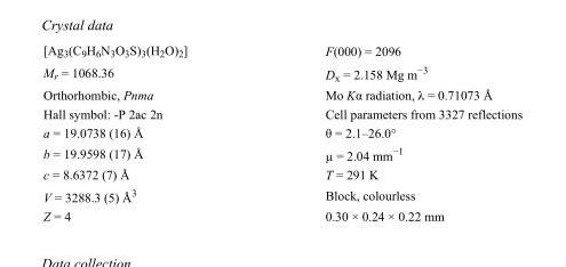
<table><tbody><tr><td>[Ag<sub>3</sub>(C<sub>9</sub>H<sub>6</sub>N<sub>3</sub>O<sub>3</sub>S)<sub>3</sub>(H<sub>2</sub>O)<sub>2</sub>]</td><td>F(000) = 2096</td></tr><tr><td>M<sub>r</sub> = 1068.36</td><td>D<sub>x</sub> = 2.158 Mg m<sup>−3</sup></td></tr><tr><td>Orthorhombic, Pnma</td><td>Mo Kα radiation, λ = 0.71073 Å</td></tr><tr><td>Hall symbol: -P 2ac 2n</td><td>Cell parameters from 3327 reflections</td></tr><tr><td>a = 19.0738 (16) Å</td><td>θ = 2.1–26.0°</td></tr><tr><td>b = 19.9598 (17) Å</td><td>µ = 2.04 mm<sup>−1</sup></td></tr><tr><td>c = 8.6372 (7) Å</td><td>T = 291 K</td></tr><tr><td>V = 3288.3 (5) Å<sup>3</sup></td><td>Block, colourless</td></tr><tr><td>Z = 4</td><td>0.30 × 0.24 × 0.22 mm</td></tr></tbody></table>